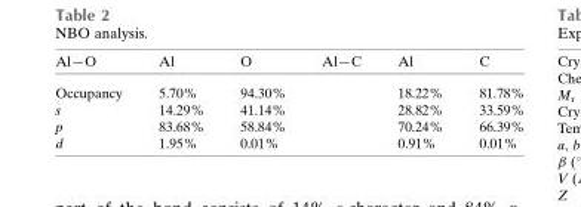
<table><thead><tr><td>Al—O</td><td>Al</td><td>O</td><td>Al—C</td><td>Al</td><td>C</td></tr></thead><tbody><tr><td>Occupancy</td><td>5.70%</td><td>94.30%</td><td></td><td>18.22%</td><td>81.78%</td></tr><tr><td>s</td><td>14.29%</td><td>41.14%</td><td></td><td>28.82%</td><td>33.59%</td></tr><tr><td>p</td><td>83.68%</td><td>58.84%</td><td></td><td>70.24%</td><td>66.39%</td></tr><tr><td>d</td><td>1.95%</td><td>0.01%</td><td></td><td>0.91%</td><td>0.01%</td></tr></tbody></table>